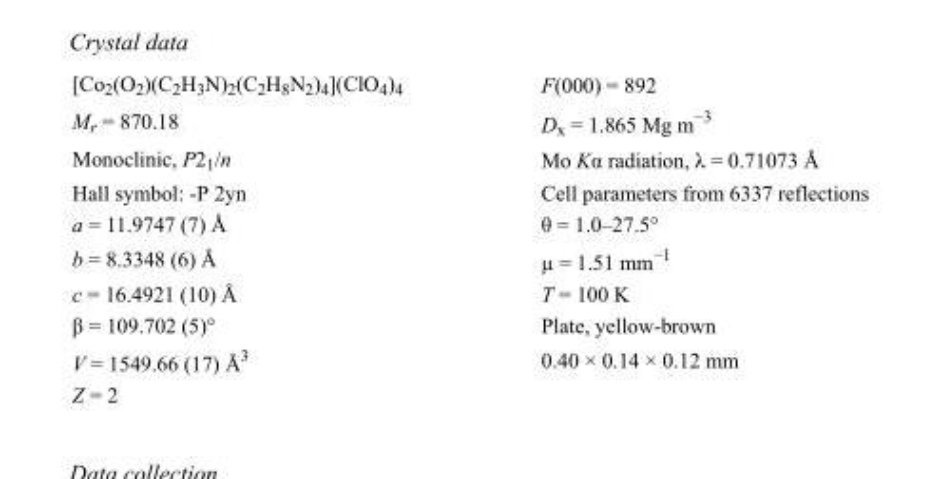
<table><tbody><tr><td>[Co<sub>2</sub>(O<sub>2</sub>)(C<sub>2</sub>H<sub>3</sub>N)<sub>2</sub>(C<sub>2</sub>H<sub>8</sub>N<sub>2</sub>)<sub>4</sub>](ClO<sub>4</sub>)<sub>4</sub></td><td>F(000) = 892</td></tr><tr><td>M<sub>r</sub> = 870.18</td><td>D<sub>x</sub> = 1.865 Mg m<sup>−3</sup></td></tr><tr><td>Monoclinic, P2<sub>1</sub>/n</td><td>Mo Kα radiation, λ = 0.71073 Å</td></tr><tr><td>Hall symbol: -P 2yn</td><td>Cell parameters from 6337 reflections</td></tr><tr><td>a = 11.9747 (7) Å</td><td>θ = 1.0–27.5°</td></tr><tr><td>b = 8.3348 (6) Å</td><td>µ = 1.51 mm<sup>−1</sup></td></tr><tr><td>c = 16.4921 (10) Å</td><td>T = 100 K</td></tr><tr><td>β = 109.702 (5)°</td><td>Plate, yellow-brown</td></tr><tr><td>V = 1549.66 (17) Å<sup>3</sup></td><td>0.40 × 0.14 × 0.12 mm</td></tr><tr><td>Z = 2</td><td></td></tr></tbody></table>